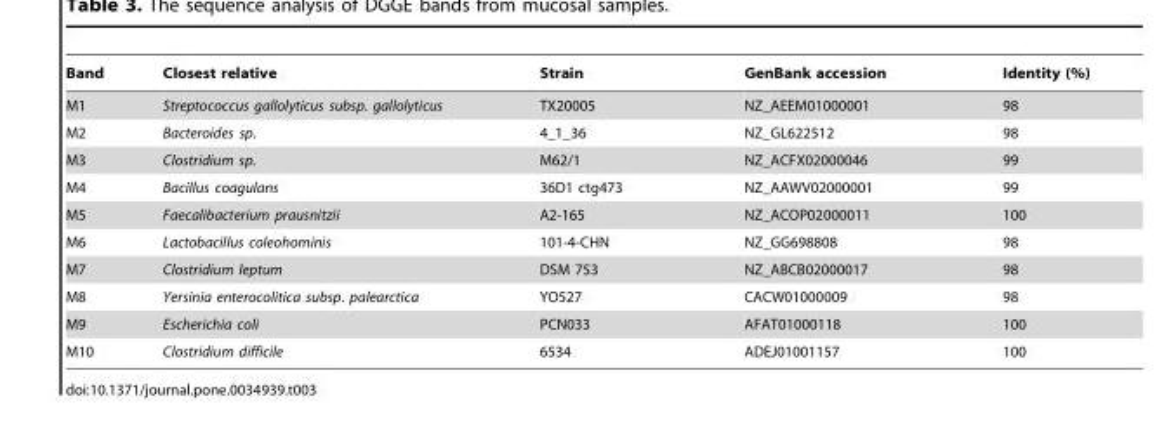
<table><thead><tr><td>Band</td><td>Closest relative</td><td>Strain</td><td>GenBank accession</td><td>Identity (%)</td></tr></thead><tbody><tr><td>M1</td><td>Streptococcus gallolyticus subsp. gallolyticus</td><td>TX20005</td><td>NZ_AEEM01000001</td><td>98</td></tr><tr><td>M2</td><td>Bacteroides sp.</td><td>4_1_36</td><td>NZ_GL622512</td><td>98</td></tr><tr><td>M3</td><td>Clostridium sp.</td><td>M62/1</td><td>NZ_ACFX02000046</td><td>99</td></tr><tr><td>M4</td><td>Bacillus coagulans</td><td>36D1 ctg473</td><td>NZ_AAWV02000001</td><td>99</td></tr><tr><td>M5</td><td>Faecalibacterium prausnitzii</td><td>A2-165</td><td>NZ_ACOP02000011</td><td>100</td></tr><tr><td>M6</td><td>Lactobacillus coleohominis</td><td>101-4-CHN</td><td>NZ_GG698808</td><td>98</td></tr><tr><td>M7</td><td>Clostridium leptum</td><td>DSM 753</td><td>NZ_ABCB02000017</td><td>98</td></tr><tr><td>M8</td><td>Yersinia enterocolitica subsp. palearctica</td><td>YO527</td><td>CACW01000009</td><td>98</td></tr><tr><td>M9</td><td>Escherichia coli</td><td>PCN033</td><td>AFAT01000118</td><td>100</td></tr><tr><td>M10</td><td>Clostridium difficile</td><td>6534</td><td>ADEJ01001157</td><td>100</td></tr></tbody></table>